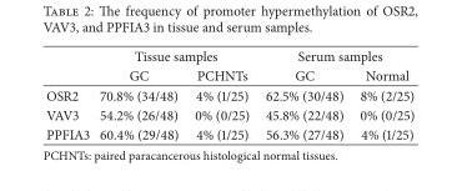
<table><thead><tr><td rowspan="2"></td><td colspan="2">Tissue samples</td><td colspan="2">Serum samples</td></tr><tr><td>GC</td><td>PCHNTs</td><td>GC</td><td>Normal</td></tr></thead><tbody><tr><td>OSR2</td><td>70.8% (34/48)</td><td>4% (1/25)</td><td>62.5% (30/48)</td><td>8% (2/25)</td></tr><tr><td>VAV3</td><td>54.2% (26/48)</td><td>0% (0/25)</td><td>45.8% (22/48)</td><td>0% (0/25)</td></tr><tr><td>PPFIA3</td><td>60.4% (29/48)</td><td>4% (1/25)</td><td>56.3% (27/48)</td><td>4% (1/25)</td></tr></tbody></table>